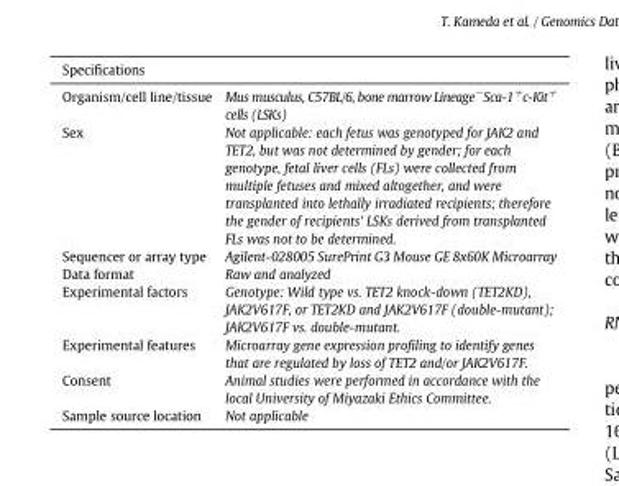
<table><tbody><tr><td colspan="2">Specifications</td></tr><tr><td>Organism/cell line/tissue</td><td>Mus musculus, C57BL/6, bone marrow Lineage<sup>−</sup>Sca-1<sup>+</sup>c-Kit<sup>+</sup> cells (LSKs)</td></tr><tr><td>Sex</td><td>Not applicable: each fetus was genotyped for JAK2 and TET2, but was not determined by gender; for each genotype, fetal liver cells (FLs) were collected from multiple fetuses and mixed altogether, and were transplanted into lethally irradiated recipients; therefore the gender of recipients&#x27; LSKs derived from transplanted FLs was not to be determined.</td></tr><tr><td>Sequencer or array type</td><td>Agilent-028005 SurePrint G3 Mouse GE 8x60K Microarray</td></tr><tr><td>Data format</td><td>Raw and analyzed</td></tr><tr><td>Experimental factors</td><td>Genotype: Wild type vs. TET2 knock-down (TET2KD), JAK2V617F, or TET2KD and JAK2V617F (double-mutant); JAK2V617F vs. double-mutant.</td></tr><tr><td>Experimental features</td><td>Microarray gene expression profiling to identify genes that are regulated by loss of TET2 and/or JAK2V617F.</td></tr><tr><td>Consent</td><td>Animal studies were performed in accordance with the local University of Miyazaki Ethics Committee.</td></tr><tr><td>Sample source location</td><td>Not applicable</td></tr></tbody></table>